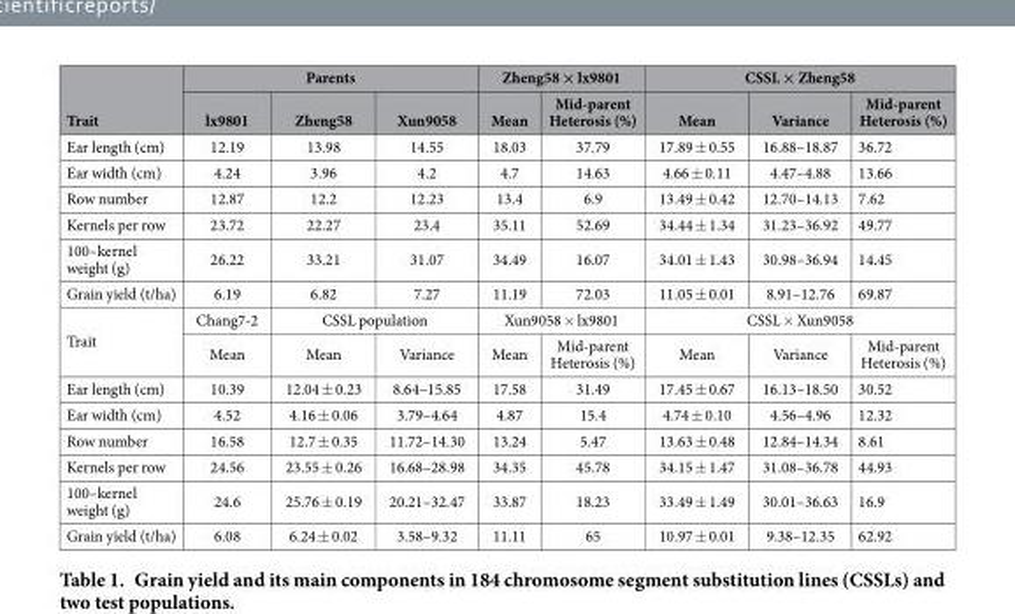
<table><thead><tr><td rowspan="2">Trait</td><td colspan="3">Parents</td><td colspan="2">Zheng58 × lx9801</td><td colspan="3">CSSL × Zheng58</td></tr><tr><td>lx9801</td><td>Zheng58</td><td>Xun9058</td><td>Mean</td><td>Mid-parent Heterosis (%)</td><td>Mean</td><td>Variance</td><td>Mid-parent Heterosis (%)</td></tr></thead><tbody><tr><td>Ear length (cm)</td><td>12.19</td><td>13.98</td><td>14.55</td><td>18.03</td><td>37.79</td><td>17.89 ± 0.55</td><td>16.88–18.87</td><td>36.72</td></tr><tr><td>Ear width (cm)</td><td>4.24</td><td>3.96</td><td>4.2</td><td>4.7</td><td>14.63</td><td>4.66 ± 0.11</td><td>4.47–4.88</td><td>13.66</td></tr><tr><td>Row number</td><td>12.87</td><td>12.2</td><td>12.23</td><td>13.4</td><td>6.9</td><td>13.49 ± 0.42</td><td>12.70–14.13</td><td>7.62</td></tr><tr><td>Kernels per row</td><td>23.72</td><td>22.27</td><td>23.4</td><td>35.11</td><td>52.69</td><td>34.44 ± 1.34</td><td>31.23–36.92</td><td>49.77</td></tr><tr><td>100–kernel weight (g)</td><td>26.22</td><td>33.21</td><td>31.07</td><td>34.49</td><td>16.07</td><td>34.01 ± 1.43</td><td>30.98–36.94</td><td>14.45</td></tr><tr><td>Grain yield (t/ha)</td><td>6.19</td><td>6.82</td><td>7.27</td><td>11.19</td><td>72.03</td><td>11.05 ± 0.01</td><td>8.91–12.76</td><td>69.87</td></tr><tr><td rowspan="2">Trait</td><td>Chang7-2</td><td colspan="2">CSSL population</td><td colspan="2">Xun9058 × lx9801</td><td colspan="3">CSSL × Xun9058</td></tr><tr><td>Mean</td><td>Mean</td><td>Variance</td><td>Mean</td><td>Mid-parent Heterosis (%)</td><td>Mean</td><td>Variance</td><td>Mid-parent Heterosis (%)</td></tr><tr><td>Ear length (cm)</td><td>10.39</td><td>12.04 ± 0.23</td><td>8.64–15.85</td><td>17.58</td><td>31.49</td><td>17.45 ± 0.67</td><td>16.13–18.50</td><td>30.52</td></tr><tr><td>Ear width (cm)</td><td>4.52</td><td>4.16 ± 0.06</td><td>3.79–4.64</td><td>4.87</td><td>15.4</td><td>4.74 ± 0.10</td><td>4.56–4.96</td><td>12.32</td></tr><tr><td>Row number</td><td>16.58</td><td>12.7 ± 0.35</td><td>11.72–14.30</td><td>13.24</td><td>5.47</td><td>13.63 ± 0.48</td><td>12.84–14.34</td><td>8.61</td></tr><tr><td>Kernels per row</td><td>24.56</td><td>23.55 ± 0.26</td><td>16.68–28.98</td><td>34.35</td><td>45.78</td><td>34.15 ± 1.47</td><td>31.08–36.78</td><td>44.93</td></tr><tr><td>100–kernel weight (g)</td><td>24.6</td><td>25.76 ± 0.19</td><td>20.21–32.47</td><td>33.87</td><td>18.23</td><td>33.49 ± 1.49</td><td>30.01–36.63</td><td>16.9</td></tr><tr><td>Grain yield (t/ha)</td><td>6.08</td><td>6.24 ± 0.02</td><td>3.58–9.32</td><td>11.11</td><td>65</td><td>10.97 ± 0.01</td><td>9.38–12.35</td><td>62.92</td></tr></tbody></table>